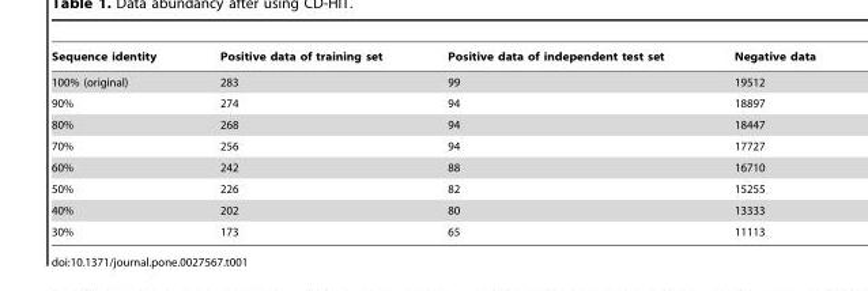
<table><thead><tr><td>Sequence identity</td><td>Positive data of training set</td><td>Positive data of independent test set</td><td>Negative data</td></tr></thead><tbody><tr><td>100% (original)</td><td>283</td><td>99</td><td>19512</td></tr><tr><td>90%</td><td>274</td><td>94</td><td>18897</td></tr><tr><td>80%</td><td>268</td><td>94</td><td>18447</td></tr><tr><td>70%</td><td>256</td><td>94</td><td>17727</td></tr><tr><td>60%</td><td>242</td><td>88</td><td>16710</td></tr><tr><td>50%</td><td>226</td><td>82</td><td>15255</td></tr><tr><td>40%</td><td>202</td><td>80</td><td>13333</td></tr><tr><td>30%</td><td>173</td><td>65</td><td>11113</td></tr></tbody></table>